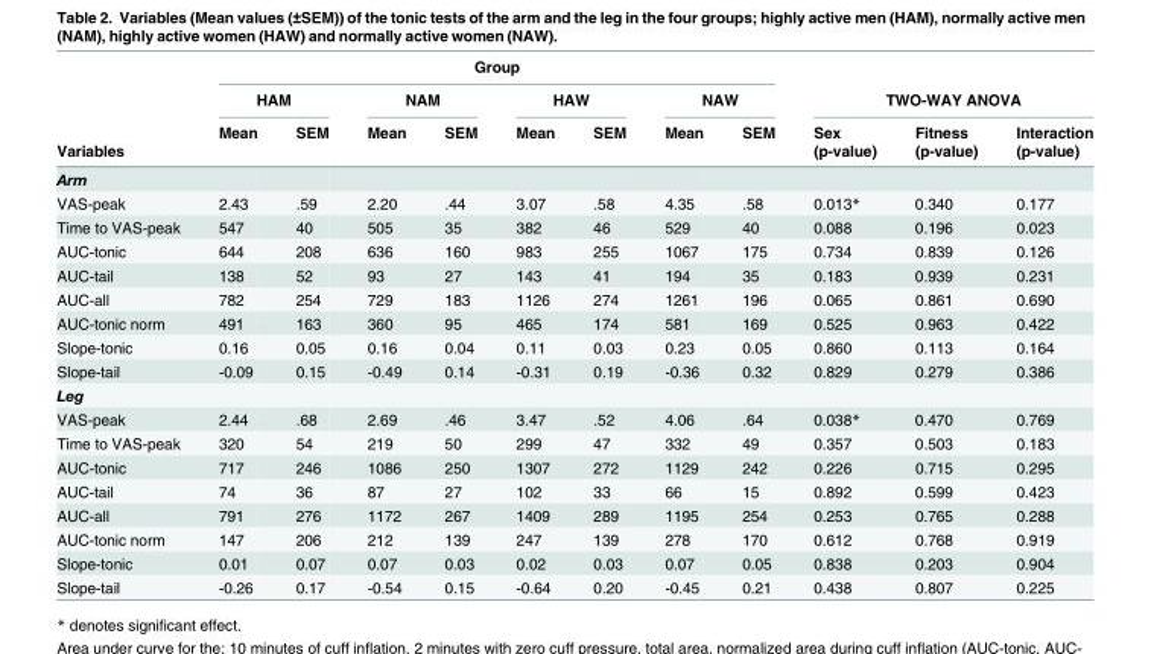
<table><thead><tr><td rowspan="4">Variables</td><td colspan="8">Group</td><td></td><td></td><td></td></tr><tr><td colspan="2">HAM</td><td colspan="2">NAM</td><td colspan="2">HAW</td><td colspan="2">NAW</td><td colspan="3">TWO-WAY ANOVA</td></tr><tr><td rowspan="2">Mean</td><td rowspan="2">SEM</td><td rowspan="2">Mean</td><td rowspan="2">SEM</td><td rowspan="2">Mean</td><td rowspan="2">SEM</td><td rowspan="2">Mean</td><td rowspan="2">SEM</td><td rowspan="2">Sex (p-value)</td><td rowspan="2">Fitness (p-value)</td><td rowspan="2">Interaction (p-value)</td></tr><tr></tr></thead><tbody><tr><td colspan="12">Arm</td></tr><tr><td>VAS-peak</td><td>2.43</td><td>.59</td><td>2.20</td><td>.44</td><td>3.07</td><td>.58</td><td>4.35</td><td>.58</td><td>0.013*</td><td>0.340</td><td>0.177</td></tr><tr><td>Time to VAS-peak</td><td>547</td><td>40</td><td>505</td><td>35</td><td>382</td><td>46</td><td>529</td><td>40</td><td>0.088</td><td>0.196</td><td>0.023</td></tr><tr><td>AUC-tonic</td><td>644</td><td>208</td><td>636</td><td>160</td><td>983</td><td>255</td><td>1067</td><td>175</td><td>0.734</td><td>0.839</td><td>0.126</td></tr><tr><td>AUC-tail</td><td>138</td><td>52</td><td>93</td><td>27</td><td>143</td><td>41</td><td>194</td><td>35</td><td>0.183</td><td>0.939</td><td>0.231</td></tr><tr><td>AUC-all</td><td>782</td><td>254</td><td>729</td><td>183</td><td>1126</td><td>274</td><td>1261</td><td>196</td><td>0.065</td><td>0.861</td><td>0.690</td></tr><tr><td>AUC-tonic norm</td><td>491</td><td>163</td><td>360</td><td>95</td><td>465</td><td>174</td><td>581</td><td>169</td><td>0.525</td><td>0.963</td><td>0.422</td></tr><tr><td>Slope-tonic</td><td>0.16</td><td>0.05</td><td>0.16</td><td>0.04</td><td>0.11</td><td>0.03</td><td>0.23</td><td>0.05</td><td>0.860</td><td>0.113</td><td>0.164</td></tr><tr><td>Slope-tail</td><td>-0.09</td><td>0.15</td><td>-0.49</td><td>0.14</td><td>-0.31</td><td>0.19</td><td>-0.36</td><td>0.32</td><td>0.829</td><td>0.279</td><td>0.386</td></tr><tr><td colspan="12">Leg</td></tr><tr><td>VAS-peak</td><td>2.44</td><td>.68</td><td>2.69</td><td>.46</td><td>3.47</td><td>.52</td><td>4.06</td><td>.64</td><td>0.038*</td><td>0.470</td><td>0.769</td></tr><tr><td>Time to VAS-peak</td><td>320</td><td>54</td><td>219</td><td>50</td><td>299</td><td>47</td><td>332</td><td>49</td><td>0.357</td><td>0.503</td><td>0.183</td></tr><tr><td>AUC-tonic</td><td>717</td><td>246</td><td>1086</td><td>250</td><td>1307</td><td>272</td><td>1129</td><td>242</td><td>0.226</td><td>0.715</td><td>0.295</td></tr><tr><td>AUC-tail</td><td>74</td><td>36</td><td>87</td><td>27</td><td>102</td><td>33</td><td>66</td><td>15</td><td>0.892</td><td>0.599</td><td>0.423</td></tr><tr><td>AUC-all</td><td>791</td><td>276</td><td>1172</td><td>267</td><td>1409</td><td>289</td><td>1195</td><td>254</td><td>0.253</td><td>0.765</td><td>0.288</td></tr><tr><td>AUC-tonic norm</td><td>147</td><td>206</td><td>212</td><td>139</td><td>247</td><td>139</td><td>278</td><td>170</td><td>0.612</td><td>0.768</td><td>0.919</td></tr><tr><td>Slope-tonic</td><td>0.01</td><td>0.07</td><td>0.07</td><td>0.03</td><td>0.02</td><td>0.03</td><td>0.07</td><td>0.05</td><td>0.838</td><td>0.203</td><td>0.904</td></tr><tr><td>Slope-tail</td><td>-0.26</td><td>0.17</td><td>-0.54</td><td>0.15</td><td>-0.64</td><td>0.20</td><td>-0.45</td><td>0.21</td><td>0.438</td><td>0.807</td><td>0.225</td></tr></tbody></table>